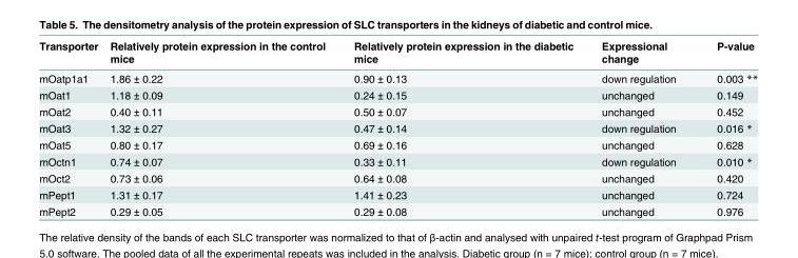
<table><thead><tr><td>Transporter</td><td>Relatively protein expression in the control mice</td><td>Relatively protein expression in the diabetic mice</td><td>Expressional change</td><td>P-value</td></tr></thead><tbody><tr><td>mOatp1a1</td><td>1.86 ± 0.22</td><td>0.90 ± 0.13</td><td>down regulation</td><td>0.003 **</td></tr><tr><td>mOat1</td><td>1.18 ± 0.09</td><td>0.24 ± 0.15</td><td>unchanged</td><td>0.149</td></tr><tr><td>mOat2</td><td>0.40 ± 0.11</td><td>0.50 ± 0.07</td><td>unchanged</td><td>0.452</td></tr><tr><td>mOat3</td><td>1.32 ± 0.27</td><td>0.47 ± 0.14</td><td>down regulation</td><td>0.016 *</td></tr><tr><td>mOat5</td><td>0.80 ± 0.17</td><td>0.69 ± 0.16</td><td>unchanged</td><td>0.628</td></tr><tr><td>mOctn1</td><td>0.74 ± 0.07</td><td>0.33 ± 0.11</td><td>down regulation</td><td>0.010 *</td></tr><tr><td>mOct2</td><td>0.73 ± 0.06</td><td>0.64 ± 0.08</td><td>unchanged</td><td>0.420</td></tr><tr><td>mPept1</td><td>1.31 ± 0.17</td><td>1.41 ± 0.23</td><td>unchanged</td><td>0.724</td></tr><tr><td>mPept2</td><td>0.29 ± 0.05</td><td>0.29 ± 0.08</td><td>unchanged</td><td>0.976</td></tr></tbody></table>